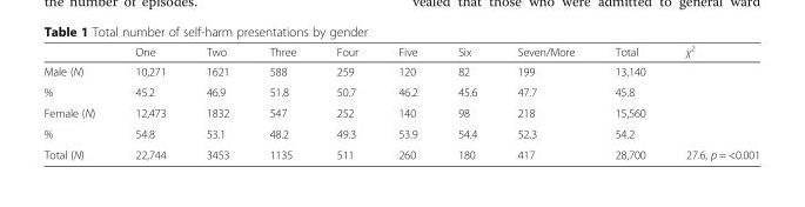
<table><thead><tr><td></td><td>One</td><td>Two</td><td>Three</td><td>Four</td><td>Five</td><td>Six</td><td>Seven/More</td><td>Total</td><td>χ<sup>2</sup></td></tr></thead><tbody><tr><td>Male (N)</td><td>10,271</td><td>1621</td><td>588</td><td>259</td><td>120</td><td>82</td><td>199</td><td>13,140</td><td></td></tr><tr><td>%</td><td>45.2</td><td>46.9</td><td>51.8</td><td>50.7</td><td>46.2</td><td>45.6</td><td>47.7</td><td>45.8</td><td></td></tr><tr><td>Female (N)</td><td>12,473</td><td>1832</td><td>547</td><td>252</td><td>140</td><td>98</td><td>218</td><td>15,560</td><td></td></tr><tr><td>%</td><td>54.8</td><td>53.1</td><td>48.2</td><td>49.3</td><td>53.9</td><td>54.4</td><td>52.3</td><td>54.2</td><td></td></tr><tr><td>Total (N)</td><td>22,744</td><td>3453</td><td>1135</td><td>511</td><td>260</td><td>180</td><td>417</td><td>28,700</td><td>27.6, p = &lt;0.001</td></tr></tbody></table>